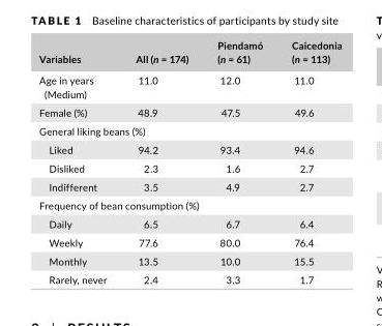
<table><thead><tr><td>Variables</td><td>All (n = 174)</td><td>Piendamó (n = 61)</td><td>Caicedonia (n = 113)</td></tr></thead><tbody><tr><td>Age in years (Medium)</td><td>11.0</td><td>12.0</td><td>11.0</td></tr><tr><td>Female (%)</td><td>48.9</td><td>47.5</td><td>49.6</td></tr><tr><td colspan="4">General liking beans (%)</td></tr><tr><td>Liked</td><td>94.2</td><td>93.4</td><td>94.6</td></tr><tr><td>Disliked</td><td>2.3</td><td>1.6</td><td>2.7</td></tr><tr><td>Indifferent</td><td>3.5</td><td>4.9</td><td>2.7</td></tr><tr><td colspan="4">Frequency of bean consumption (%)</td></tr><tr><td>Daily</td><td>6.5</td><td>6.7</td><td>6.4</td></tr><tr><td>Weekly</td><td>77.6</td><td>80.0</td><td>76.4</td></tr><tr><td>Monthly</td><td>13.5</td><td>10.0</td><td>15.5</td></tr><tr><td>Rarely, never</td><td>2.4</td><td>3.3</td><td>1.7</td></tr></tbody></table>